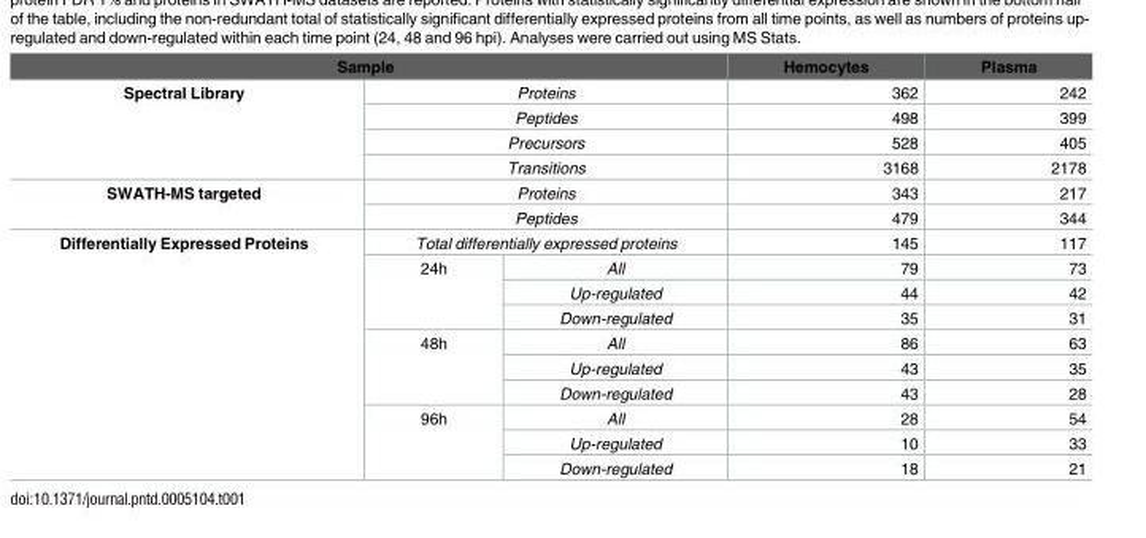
<table><thead><tr><td colspan="3">Sample</td><td>Hemocytes</td><td>Plasma</td></tr></thead><tbody><tr><td rowspan="4">Spectral Library</td><td colspan="2">Proteins</td><td>362</td><td>242</td></tr><tr><td colspan="2">Peptides</td><td>498</td><td>399</td></tr><tr><td colspan="2">Precursors</td><td>528</td><td>405</td></tr><tr><td colspan="2">Transitions</td><td>3168</td><td>2178</td></tr><tr><td rowspan="2">SWATH-MS targeted</td><td colspan="2">Proteins</td><td>343</td><td>217</td></tr><tr><td colspan="2">Peptides</td><td>479</td><td>344</td></tr><tr><td rowspan="10">Differentially Expressed Proteins</td><td colspan="2">Total differentially expressed proteins</td><td>145</td><td>117</td></tr><tr><td rowspan="3">24h</td><td>All</td><td>79</td><td>73</td></tr><tr><td>Up-regulated</td><td>44</td><td>42</td></tr><tr><td>Down-regulated</td><td>35</td><td>31</td></tr><tr><td rowspan="3">48h</td><td>All</td><td>86</td><td>63</td></tr><tr><td>Up-regulated</td><td>43</td><td>35</td></tr><tr><td>Down-regulated</td><td>43</td><td>28</td></tr><tr><td rowspan="3">96h</td><td>All</td><td>28</td><td>54</td></tr><tr><td>Up-regulated</td><td>10</td><td>33</td></tr><tr><td>Down-regulated</td><td>18</td><td>21</td></tr></tbody></table>